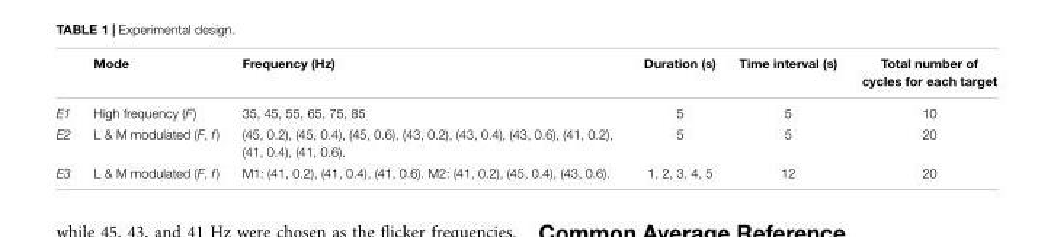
<table><thead><tr><td></td><td>Mode</td><td>Frequency (Hz)</td><td>Duration (s)</td><td>Time interval (s)</td><td>Total number of cycles for each target</td></tr></thead><tbody><tr><td>E1</td><td>High frequency (F)</td><td>35, 45, 55, 65, 75, 85</td><td>5</td><td>5</td><td>10</td></tr><tr><td>E2</td><td>L &amp; M modulated (F, f)</td><td>(45, 0.2), (45, 0.4), (45, 0.6), (43, 0.2), (43, 0.4), (43, 0.6), (41, 0.2), (41, 0.4), (41, 0.6).</td><td>5</td><td>5</td><td>20</td></tr><tr><td>E3</td><td>L &amp; M modulated (F, f)</td><td>M1: (41, 0.2), (41, 0.4), (41, 0.6). M2: (41, 0.2), (45, 0.4), (43, 0.6).</td><td>1, 2, 3, 4, 5</td><td>12</td><td>20</td></tr></tbody></table>